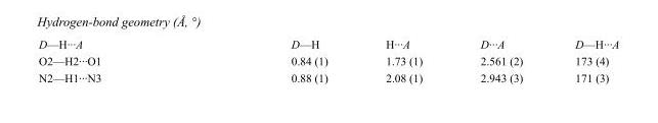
<table><tbody><tr><td>D—H···A</td><td>D—H</td><td>H···A</td><td>D···A</td><td>D—H···A</td></tr><tr><td>O2—H2···O1</td><td>0.84 (1)</td><td>1.73 (1)</td><td>2.561 (2)</td><td>173 (4)</td></tr><tr><td>N2—H1···N3</td><td>0.88 (1)</td><td>2.08 (1)</td><td>2.943 (3)</td><td>171 (3)</td></tr></tbody></table>